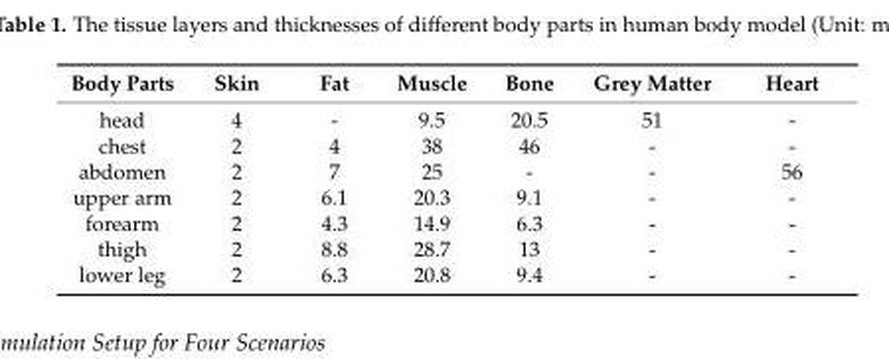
<table><thead><tr><td>Body Parts</td><td>Skin</td><td>Fat</td><td>Muscle</td><td>Bone</td><td>Grey Matter</td><td>Heart</td></tr></thead><tbody><tr><td>head</td><td>4</td><td>-</td><td>9.5</td><td>20.5</td><td>51</td><td>-</td></tr><tr><td>chest</td><td>2</td><td>4</td><td>38</td><td>46</td><td>-</td><td>-</td></tr><tr><td>abdomen</td><td>2</td><td>7</td><td>25</td><td>-</td><td>-</td><td>56</td></tr><tr><td>upper arm</td><td>2</td><td>6.1</td><td>20.3</td><td>9.1</td><td>-</td><td>-</td></tr><tr><td>forearm</td><td>2</td><td>4.3</td><td>14.9</td><td>6.3</td><td>-</td><td>-</td></tr><tr><td>thigh</td><td>2</td><td>8.8</td><td>28.7</td><td>13</td><td>-</td><td>-</td></tr><tr><td>lower leg</td><td>2</td><td>6.3</td><td>20.8</td><td>9.4</td><td>-</td><td>-</td></tr></tbody></table>